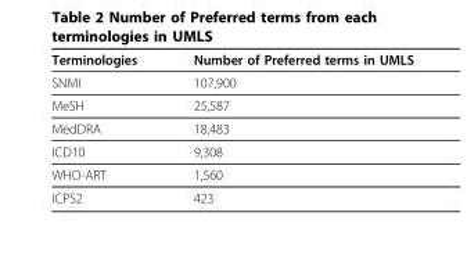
<table><thead><tr><td>Terminologies</td><td>Number of Preferred terms in UMLS</td></tr></thead><tbody><tr><td>SNMI</td><td>107,900</td></tr><tr><td>MeSH</td><td>25,587</td></tr><tr><td>MedDRA</td><td>18,483</td></tr><tr><td>ICD10</td><td>9,308</td></tr><tr><td>WHO-ART</td><td>1,560</td></tr><tr><td>ICPS2</td><td>423</td></tr></tbody></table>